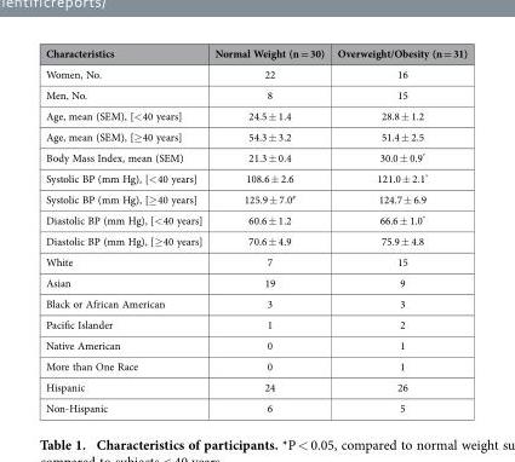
<table><thead><tr><td>Characteristics</td><td>Normal Weight (n = 30)</td><td>Overweight/Obesity (n = 31)</td></tr></thead><tbody><tr><td>Women, No.</td><td>22</td><td>16</td></tr><tr><td>Men, No.</td><td>8</td><td>15</td></tr><tr><td>Age, mean (SEM), [&lt; 40 years]</td><td>24.5 ± 1.4</td><td>28.8 ± 1.2</td></tr><tr><td>Age, mean (SEM), [≥ 40 years]</td><td>54.3 ± 3.2</td><td>51.4 ± 2.5</td></tr><tr><td>Body Mass Index, mean (SEM)</td><td>21.3 ± 0.4</td><td>30.0 ± 0.9*</td></tr><tr><td>Systolic BP (mm Hg), [&lt; 40 years]</td><td>108.6 ± 2.6</td><td>121.0 ± 2.1*</td></tr><tr><td>Systolic BP (mm Hg), [≥ 40 years]</td><td>125.9 ± 7.0<sup>#</sup></td><td>124.7 ± 6.9</td></tr><tr><td>Diastolic BP (mm Hg), [&lt; 40 years]</td><td>60.6 ± 1.2</td><td>66.6 ± 1.0*</td></tr><tr><td>Diastolic BP (mm Hg), [≥ 40 years]</td><td>70.6 ± 4.9</td><td>75.9 ± 4.8</td></tr><tr><td>White</td><td>7</td><td>15</td></tr><tr><td>Asian</td><td>19</td><td>9</td></tr><tr><td>Black or African American</td><td>3</td><td>3</td></tr><tr><td>Pacific Islander</td><td>1</td><td>2</td></tr><tr><td>Native American</td><td>0</td><td>1</td></tr><tr><td>More than One Race</td><td>0</td><td>1</td></tr><tr><td>Hispanic</td><td>24</td><td>26</td></tr><tr><td>Non-Hispanic</td><td>6</td><td>5</td></tr></tbody></table>